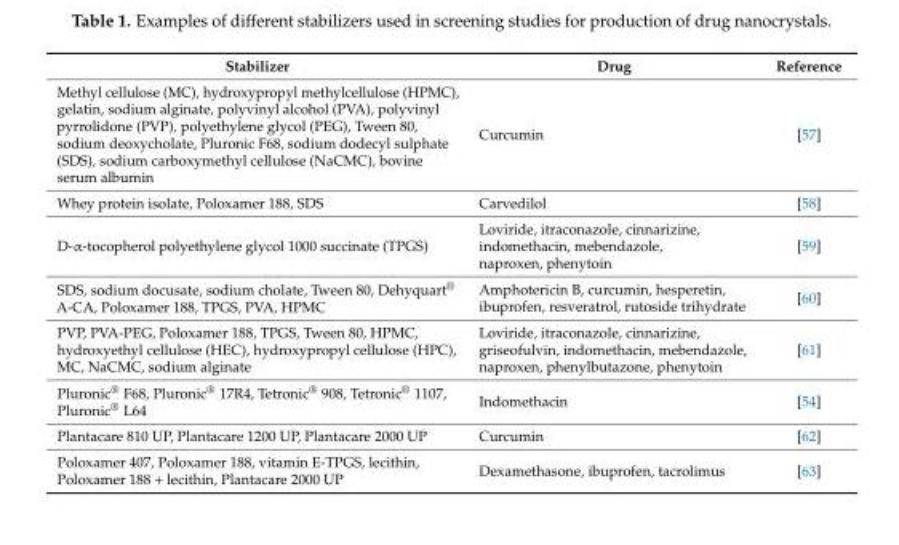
<table><thead><tr><td>Stabilizer</td><td>Drug</td><td>Reference</td></tr></thead><tbody><tr><td>Methyl cellulose (MC), hydroxypropyl methylcellulose (HPMC), gelatin, sodium alginate, polyvinyl alcohol (PVA), polyvinyl pyrrolidone (PVP), polyethylene glycol (PEG), Tween 80, sodium deoxycholate, Pluronic F68, sodium dodecyl sulphate (SDS), sodium carboxymethyl cellulose (NaCMC), bovine serum albumin</td><td>Curcumin</td><td>[57]</td></tr><tr><td>Whey protein isolate, Poloxamer 188, SDS</td><td>Carvedilol</td><td>[58]</td></tr><tr><td>D-α-tocopherol polyethylene glycol 1000 succinate (TPGS)</td><td>Loviride, itraconazole, cinnarizine, indomethacin, mebendazole, naproxen, phenytoin</td><td>[59]</td></tr><tr><td>SDS, sodium docusate, sodium cholate, Tween 80, Dehyquart<sup>®</sup> A-CA, Poloxamer 188, TPGS, PVA, HPMC</td><td>Amphotericin B, curcumin, hesperetin, ibuprofen, resveratrol, rutoside trihydrate</td><td>[60]</td></tr><tr><td>PVP, PVA-PEG, Poloxamer 188, TPGS, Tween 80, HPMC, hydroxyethyl cellulose (HEC), hydroxypropyl cellulose (HPC), MC, NaCMC, sodium alginate</td><td>Loviride, itraconazole, cinnarizine, griseofulvin, indomethacin, mebendazole, naproxen, phenylbutazone, phenytoin</td><td>[61]</td></tr><tr><td>Pluronic<sup>®</sup> F68, Pluronic<sup>®</sup> 17R4, Tetronic<sup>®</sup> 908, Tetronic<sup>®</sup> 1107, Pluronic<sup>®</sup> L64</td><td>Indomethacin</td><td>[54]</td></tr><tr><td>Plantacare 810 UP, Plantacare 1200 UP, Plantacare 2000 UP</td><td>Curcumin</td><td>[62]</td></tr><tr><td>Poloxamer 407, Poloxamer 188, vitamin E-TPGS, lecithin, Poloxamer 188 + lecithin, Plantacare 2000 UP</td><td>Dexamethasone, ibuprofen, tacrolimus</td><td>[63]</td></tr></tbody></table>